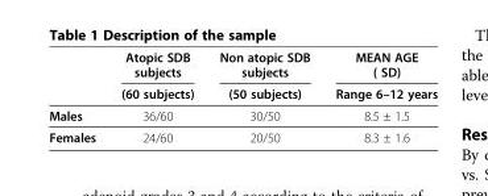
<table><thead><tr><td rowspan="2"></td><td rowspan="2">Atopic SDB subjects (60 subjects)</td><td rowspan="2">Non atopic SDB subjects (50 subjects)</td><td rowspan="2">MEAN AGE ( SD) Range 6–12 years</td></tr><tr></tr></thead><tbody><tr><td>Males</td><td>36/60</td><td>30/50</td><td>8.5 ± 1.5</td></tr><tr><td>Females</td><td>24/60</td><td>20/50</td><td>8.3 ± 1.6</td></tr></tbody></table>